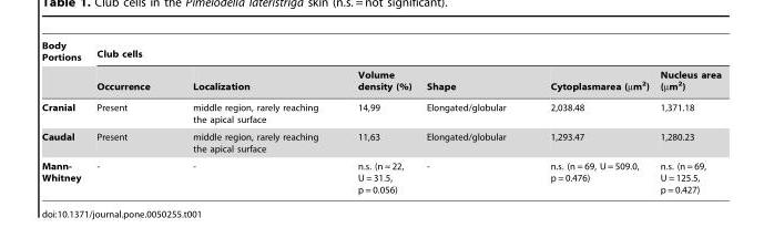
<table><thead><tr><td rowspan="2">Body Portions</td><td colspan="6">Club cells</td></tr><tr><td>Occurrence</td><td>Localization</td><td>Volume density (%)</td><td>Shape</td><td>Cytoplasmarea (µm<sup>2</sup>)</td><td>Nucleus area (µm<sup>2</sup>)</td></tr></thead><tbody><tr><td>Cranial</td><td>Present</td><td>middle region, rarely reaching the apical surface</td><td>14,99</td><td>Elongated/globular</td><td>2,038.48</td><td>1,371.18</td></tr><tr><td>Caudal</td><td>Present</td><td>middle region, rarely reaching the apical surface</td><td>11,63</td><td>Elongated/globular</td><td>1,293.47</td><td>1,280.23</td></tr><tr><td>Mann- Whitney</td><td>-</td><td>-</td><td>n.s. (n = 22, U = 31.5, p = 0.056)</td><td>-</td><td>n.s. (n = 69, U = 509.0, p = 0.476)</td><td>n.s. (n = 69, U = 125.5, p = 0.427)</td></tr></tbody></table>